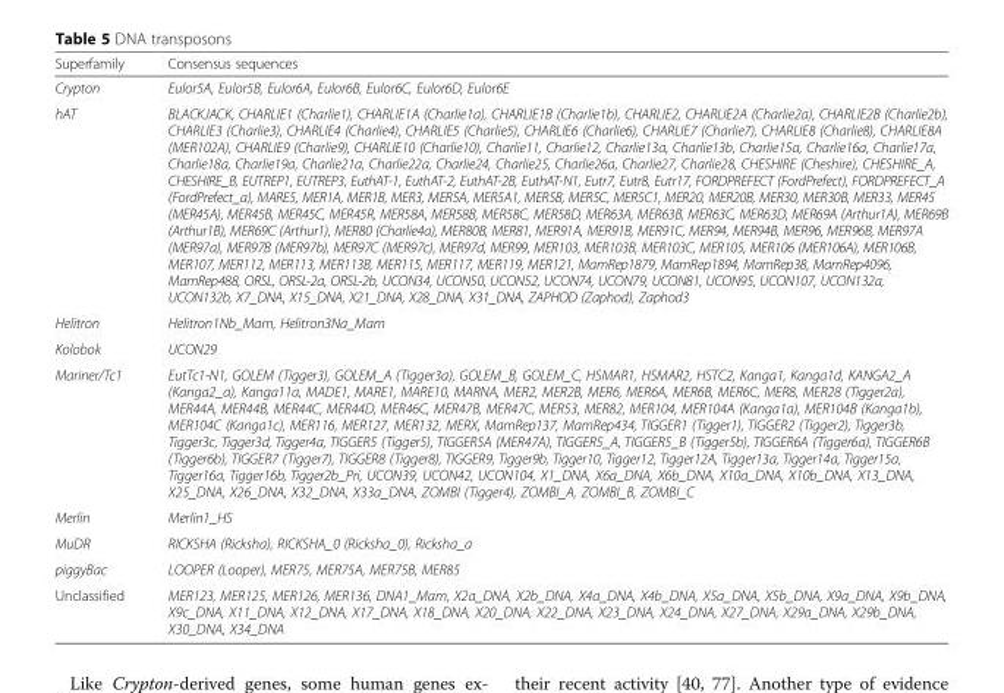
<table><thead><tr><td>Superfamily</td><td>Consensus sequences</td></tr></thead><tbody><tr><td>Crypton</td><td>Eulor5A, Eulor5B, Eulor6A, Eulor6B, Eulor6C, Eulor6D, Eulor6E</td></tr><tr><td>hAT</td><td>BLACKJACK, CHARLIE1 (Charlie1), CHARLIE1A (Charlie1a), CHARLIE1B (Charlie1b), CHARLIE2, CHARLIE2A (Charlie2a), CHARLIE2B (Charlie2b), CHARLIE3 (Charlie3), CHARLIE4 (Charlie4), CHARLIE5 (Charlie5), CHARLIE6 (Charlie6), CHARLIE7 (Charlie7), CHARLIE8 (Charlie8), CHARLIE8A (MER102A), CHARLIE9 (Charlie9), CHARLIE10 (Charlie10), Charlie11, Charlie12, Charlie13a, Charlie13b, Charlie15a, Charlie16a, Charlie17a, Charlie18a, Charlie19a, Charlie21a, Charlie22a, Charlie24, Charlie25, Charlie26a, Charlie27, Charlie28, CHESHIRE (Cheshire), CHESHIRE_A, CHESHIRE_B, EUTREP1, EUTREP3, EuthAT-1, EuthAT-2, EuthAT-2B, EuthAT-N1, Eutr7, Eutr8, Eutr17, FORDPREFECT (FordPrefect), FORDPREFECT_A (FordPrefect_a), MARE5, MER1A, MER1B, MER3, MER5A, MER5A1, MER5B, MER5C, MER5C1, MER20, MER20B, MER30, MER30B, MER33, MER45 (MER45A), MER45B, MER45C, MER45R, MER58A, MER58B, MER58C, MER58D, MER63A, MER63B, MER63C, MER63D, MER69A (Arthur1A), MER69B (Arthur1B), MER69C (Arthur1), MER80 (Charlie4a), MER80B, MER81, MER91A, MER91B, MER91C, MER94, MER94B, MER96, MER96B, MER97A (MER97a), MER97B (MER97b), MER97C (MER97c), MER97d, MER99, MER103, MER103B, MER103C, MER105, MER106 (MER106A), MER106B, MER107, MER112, MER113, MER113B, MER115, MER117, MER119, MER121, MamRep1879, MamRep1894, MamRep38, MamRep4096, MamRep488, ORSL, ORSL-2a, ORSL-2b, UCON34, UCON50, UCON52, UCON74, UCON79, UCON81, UCON95, UCON107, UCON132a, UCON132b, X7_DNA, X15_DNA, X21_DNA, X28_DNA, X31_DNA, ZAPHOD (Zaphod), Zaphod3</td></tr><tr><td>Helitron</td><td>Helitron1Nb_Mam, Helitron3Na_Mam</td></tr><tr><td>Kolobok</td><td>UCON29</td></tr><tr><td>Mariner/Tc1</td><td>EutTc1-N1, GOLEM (Tigger3), GOLEM_A (Tigger3a), GOLEM_B, GOLEM_C, HSMAR1, HSMAR2, HSTC2, Kanga1, Kanga1d, KANGA2_A (Kanga2_a), Kanga11a, MADE1, MARE1, MARE10, MARNA, MER2, MER2B, MER6, MER6A, MER6B, MER6C, MER8, MER28 (Tigger2a), MER44A, MER44B, MER44C, MER44D, MER46C, MER47B, MER47C, MER53, MER82, MER104, MER104A (Kanga1a), MER104B (Kanga1b), MER104C (Kanga1c), MER116, MER127, MER132, MERX, MamRep137, MamRep434, TIGGER1 (Tigger1), TIGGER2 (Tigger2), Tigger3b, Tigger3c, Tigger3d, Tigger4a, TIGGER5 (Tigger5), TIGGER5A (MER47A), TIGGER5_A, TIGGER5_B (Tigger5b), TIGGER6A (Tigger6a), TIGGER6B (Tigger6b), TIGGER7 (Tigger7), TIGGER8 (Tigger8), TIGGER9, Tigger9b, Tigger10, Tigger12, Tigger12A, Tigger13a, Tigger14a, Tigger15a, Tigger16a, Tigger16b, Tigger2b_Pri, UCON39, UCON42, UCON104, X1_DNA, X6a_DNA, X6b_DNA, X10a_DNA, X10b_DNA, X13_DNA, X25_DNA, X26_DNA, X32_DNA, X33a_DNA, ZOMBI (Tigger4), ZOMBI_A, ZOMBI_B, ZOMBI_C</td></tr><tr><td>Merlin</td><td>Merlin1_HS</td></tr><tr><td>MuDR</td><td>RICKSHA (Ricksha), RICKSHA_0 (Ricksha_0), Ricksha_a</td></tr><tr><td>piggyBac</td><td>LOOPER (Looper), MER75, MER75A, MER75B, MER85</td></tr><tr><td>Unclassified</td><td>MER123, MER125, MER126, MER136, DNA1_Mam, X2a_DNA, X2b_DNA, X4a_DNA, X4b_DNA, X5a_DNA, X5b_DNA, X9a_DNA, X9b_DNA, X9c_DNA, X11_DNA, X12_DNA, X17_DNA, X18_DNA, X20_DNA, X22_DNA, X23_DNA, X24_DNA, X27_DNA, X29a_DNA, X29b_DNA, X30_DNA, X34_DNA</td></tr></tbody></table>